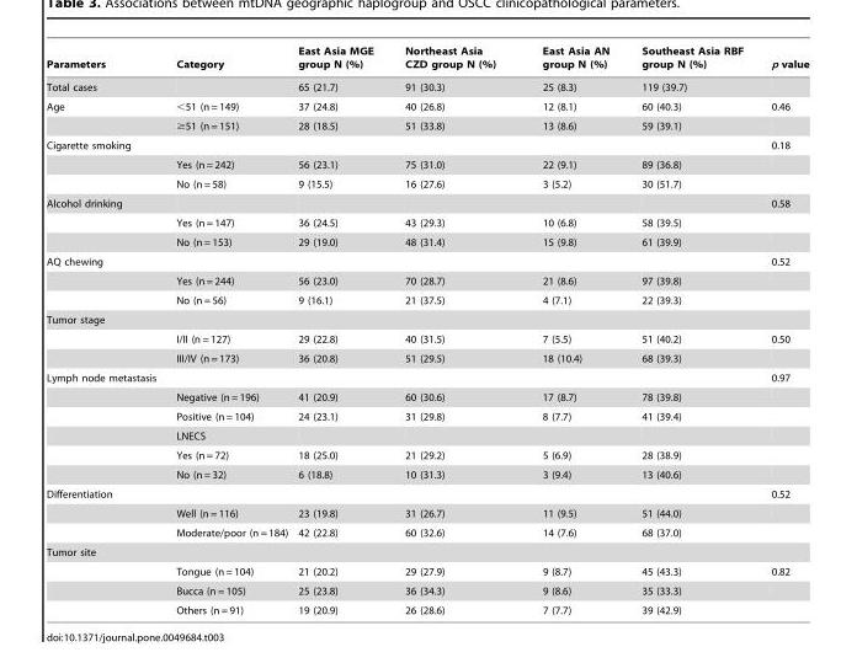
<table><thead><tr><td>Parameters</td><td>Category</td><td>East Asia MGE group N (%)</td><td>Northeast Asia CZD group N (%)</td><td>East Asia AN group N (%)</td><td>Southeast Asia RBF group N (%)</td><td>p value</td></tr></thead><tbody><tr><td>Total cases</td><td></td><td>65 (21.7)</td><td>91 (30.3)</td><td>25 (8.3)</td><td>119 (39.7)</td><td></td></tr><tr><td rowspan="2">Age</td><td>&lt;51 (n = 149)</td><td>37 (24.8)</td><td>40 (26.8)</td><td>12 (8.1)</td><td>60 (40.3)</td><td>0.46</td></tr><tr><td>≥51 (n = 151)</td><td>28 (18.5)</td><td>51 (33.8)</td><td>13 (8.6)</td><td>59 (39.1)</td><td></td></tr><tr><td rowspan="3">Cigarette smoking</td><td></td><td></td><td></td><td></td><td></td><td>0.18</td></tr><tr><td>Yes (n = 242)</td><td>56 (23.1)</td><td>75 (31.0)</td><td>22 (9.1)</td><td>89 (36.8)</td><td></td></tr><tr><td>No (n = 58)</td><td>9 (15.5)</td><td>16 (27.6)</td><td>3 (5.2)</td><td>30 (51.7)</td><td></td></tr><tr><td rowspan="3">Alcohol drinking</td><td></td><td></td><td></td><td></td><td></td><td>0.58</td></tr><tr><td>Yes (n = 147)</td><td>36 (24.5)</td><td>43 (29.3)</td><td>10 (6.8)</td><td>58 (39.5)</td><td></td></tr><tr><td>No (n = 153)</td><td>29 (19.0)</td><td>48 (31.4)</td><td>15 (9.8)</td><td>61 (39.9)</td><td></td></tr><tr><td rowspan="3">AQ chewing</td><td></td><td></td><td></td><td></td><td></td><td>0.52</td></tr><tr><td>Yes (n = 244)</td><td>56 (23.0)</td><td>70 (28.7)</td><td>21 (8.6)</td><td>97 (39.8)</td><td></td></tr><tr><td>No (n = 56)</td><td>9 (16.1)</td><td>21 (37.5)</td><td>4 (7.1)</td><td>22 (39.3)</td><td></td></tr><tr><td colspan="7">Tumor stage</td></tr><tr><td></td><td>I/II (n = 127)</td><td>29 (22.8)</td><td>40 (31.5)</td><td>7 (5.5)</td><td>51 (40.2)</td><td>0.50</td></tr><tr><td></td><td>III/IV (n = 173)</td><td>36 (20.8)</td><td>51 (29.5)</td><td>18 (10.4)</td><td>68 (39.3)</td><td></td></tr><tr><td rowspan="6">Lymph node metastasis</td><td></td><td></td><td></td><td></td><td></td><td>0.97</td></tr><tr><td>Negative (n = 196)</td><td>41 (20.9)</td><td>60 (30.6)</td><td>17 (8.7)</td><td>78 (39.8)</td><td></td></tr><tr><td>Positive (n = 104)</td><td>24 (23.1)</td><td>31 (29.8)</td><td>8 (7.7)</td><td>41 (39.4)</td><td></td></tr><tr><td>LNECS</td><td></td><td></td><td></td><td></td><td></td></tr><tr><td>Yes (n = 72)</td><td>18 (25.0)</td><td>21 (29.2)</td><td>5 (6.9)</td><td>28 (38.9)</td><td></td></tr><tr><td>No (n = 32)</td><td>6 (18.8)</td><td>10 (31.3)</td><td>3 (9.4)</td><td>13 (40.6)</td><td></td></tr><tr><td rowspan="3">Differentiation</td><td></td><td></td><td></td><td></td><td></td><td>0.52</td></tr><tr><td>Well (n = 116)</td><td>23 (19.8)</td><td>31 (26.7)</td><td>11 (9.5)</td><td>51 (44.0)</td><td></td></tr><tr><td>Moderate/poor (n = 184)</td><td>42 (22.8)</td><td>60 (32.6)</td><td>14 (7.6)</td><td>68 (37.0)</td><td></td></tr><tr><td colspan="7">Tumor site</td></tr><tr><td></td><td>Tongue (n = 104)</td><td>21 (20.2)</td><td>29 (27.9)</td><td>9 (8.7)</td><td>45 (43.3)</td><td>0.82</td></tr><tr><td></td><td>Bucca (n = 105)</td><td>25 (23.8)</td><td>36 (34.3)</td><td>9 (8.6)</td><td>35 (33.3)</td><td></td></tr><tr><td></td><td>Others (n = 91)</td><td>19 (20.9)</td><td>26 (28.6)</td><td>7 (7.7)</td><td>39 (42.9)</td><td></td></tr></tbody></table>